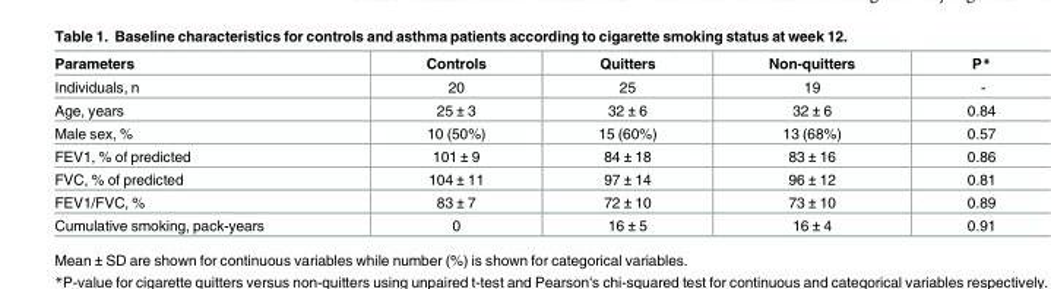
<table><thead><tr><td>Parameters</td><td>Controls</td><td>Quitters</td><td>Non-quitters</td><td>P*</td></tr></thead><tbody><tr><td>Individuals, n</td><td>20</td><td>25</td><td>19</td><td>-</td></tr><tr><td>Age, years</td><td>25 ± 3</td><td>32 ± 6</td><td>32 ± 6</td><td>0.84</td></tr><tr><td>Male sex, %</td><td>10 (50%)</td><td>15 (60%)</td><td>13 (68%)</td><td>0.57</td></tr><tr><td>FEV1, % of predicted</td><td>101 ± 9</td><td>84 ± 18</td><td>83 ± 16</td><td>0.86</td></tr><tr><td>FVC, % of predicted</td><td>104 ± 11</td><td>97 ± 14</td><td>96 ± 12</td><td>0.81</td></tr><tr><td>FEV1/FVC, %</td><td>83 ± 7</td><td>72 ± 10</td><td>73 ± 10</td><td>0.89</td></tr><tr><td>Cumulative smoking, pack-years</td><td>0</td><td>16 ± 5</td><td>16 ± 4</td><td>0.91</td></tr></tbody></table>